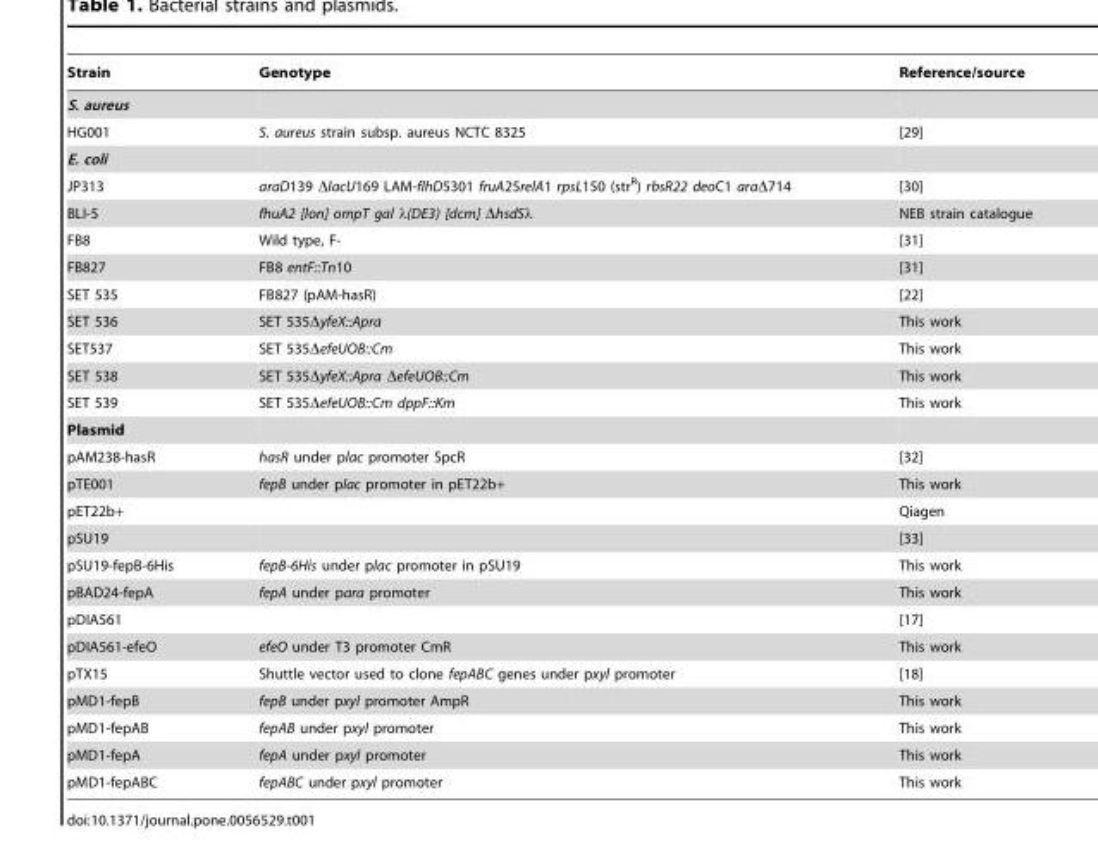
<table><thead><tr><td>Strain</td><td>Genotype</td><td>Reference/source</td></tr></thead><tbody><tr><td colspan="3">S. aureus</td></tr><tr><td>HG001</td><td>S. aureus strain subsp. aureus NCTC 8325</td><td>[29]</td></tr><tr><td colspan="3">E. coli</td></tr><tr><td>JP313</td><td>araD139 ΔlacU169 LAM-flhD5301 fruA25relA1 rpsL150 (str<sup>R</sup>) rbsR22 deoC1 araΔ714</td><td>[30]</td></tr><tr><td>BLI-5</td><td>fhuA2 [lon] ompT gal λ(DE3) [dcm] ΔhsdSλ</td><td>NEB strain catalogue</td></tr><tr><td>FB8</td><td>Wild type, F-</td><td>[31]</td></tr><tr><td>FB827</td><td>FB8 entF::Tn10</td><td>[31]</td></tr><tr><td>SET 535</td><td>FB827 (pAM-hasR)</td><td>[22]</td></tr><tr><td>SET 536</td><td>SET 535ΔyfeX::Apra</td><td>This work</td></tr><tr><td>SET537</td><td>SET 535ΔefeUOB::Cm</td><td>This work</td></tr><tr><td>SET 538</td><td>SET 535ΔyfeX::Apra ΔefeUOB::Cm</td><td>This work</td></tr><tr><td>SET 539</td><td>SET 535ΔefeUOB::Cm dppF::Km</td><td>This work</td></tr><tr><td colspan="3">Plasmid</td></tr><tr><td>pAM238-hasR</td><td>hasR under plac promoter SpcR</td><td>[32]</td></tr><tr><td>pTE001</td><td>fepB under plac promoter in pET22b+</td><td>This work</td></tr><tr><td>pET22b+</td><td></td><td>Qiagen</td></tr><tr><td>pSU19</td><td></td><td>[33]</td></tr><tr><td>pSU19-fepB-6His</td><td>fepB-6His under plac promoter in pSU19</td><td>This work</td></tr><tr><td>pBAD24-fepA</td><td>fepA under para promoter</td><td>This work</td></tr><tr><td>pDIA561</td><td></td><td>[17]</td></tr><tr><td>pDIA561-efeO</td><td>efeO under T3 promoter CmR</td><td>This work</td></tr><tr><td>pTX15</td><td>Shuttle vector used to clone fepABC genes under pxyl promoter</td><td>[18]</td></tr><tr><td>pMD1-fepB</td><td>fepB under pxyl promoter AmpR</td><td>This work</td></tr><tr><td>pMD1-fepAB</td><td>fepAB under pxyl promoter</td><td>This work</td></tr><tr><td>pMD1-fepA</td><td>fepA under pxyl promoter</td><td>This work</td></tr><tr><td>pMD1-fepABC</td><td>fepABC under pxyl promoter</td><td>This work</td></tr></tbody></table>